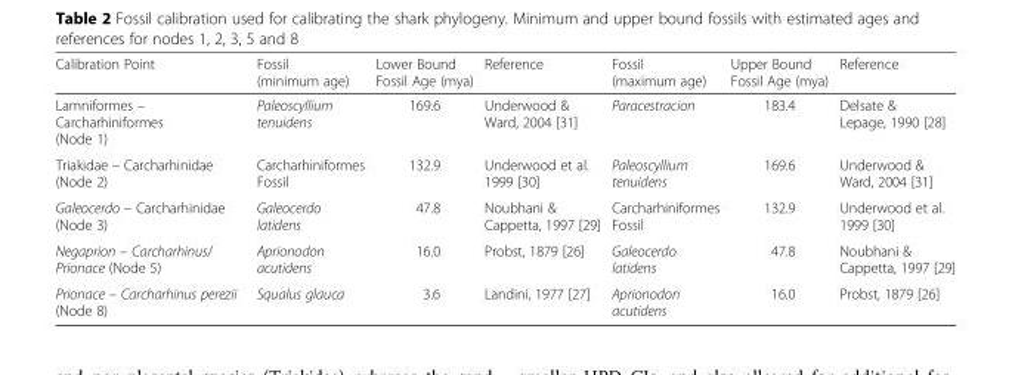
<table><thead><tr><td>Calibration Point</td><td>Fossil (minimum age)</td><td>Lower Bound Fossil Age (mya)</td><td>Reference</td><td>Fossil (maximum age)</td><td>Upper Bound Fossil Age (mya)</td><td>Reference</td></tr></thead><tbody><tr><td>Lamniformes – Carcharhiniformes (Node 1)</td><td>Paleoscyllium tenuidens</td><td>169.6</td><td>Underwood &amp; Ward, 2004 [31]</td><td>Paracestracion</td><td>183.4</td><td>Delsate &amp; Lepage, 1990 [28]</td></tr><tr><td>Triakidae – Carcharhinidae (Node 2)</td><td>Carcharhiniformes Fossil</td><td>132.9</td><td>Underwood et al. 1999 [30]</td><td>Paleoscyllium tenuidens</td><td>169.6</td><td>Underwood &amp; Ward, 2004 [31]</td></tr><tr><td>Galeocerdo – Carcharhinidae (Node 3)</td><td>Galeocerdo latidens</td><td>47.8</td><td>Noubhani &amp; Cappetta, 1997 [29]</td><td>Carcharhiniformes Fossil</td><td>132.9</td><td>Underwood et al. 1999 [30]</td></tr><tr><td>Negaprion – Carcharhinus/ Prionace (Node 5)</td><td>Aprionodon acutidens</td><td>16.0</td><td>Probst, 1879 [26]</td><td>Galeocerdo latidens</td><td>47.8</td><td>Noubhani &amp; Cappetta, 1997 [29]</td></tr><tr><td>Prionace – Carcharhinus perezii (Node 8)</td><td>Squalus glauca</td><td>3.6</td><td>Landini, 1977 [27]</td><td>Aprionodon acutidens</td><td>16.0</td><td>Probst, 1879 [26]</td></tr></tbody></table>